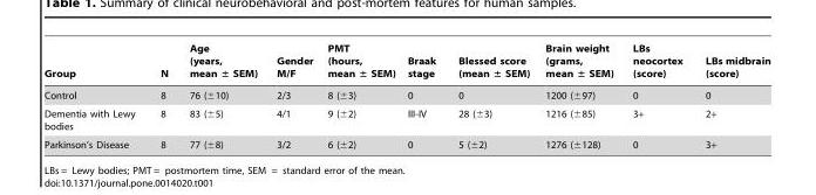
<table><thead><tr><td>Group</td><td>N</td><td>Age (years, mean ± SEM)</td><td>Gender M/F</td><td>PMT (hours, mean ± SEM)</td><td>Braak stage</td><td>Blessed score (mean ± SEM)</td><td>Brain weight (grams, mean ± SEM)</td><td>LBs neocortex (score)</td><td>LBs midbrain (score)</td></tr></thead><tbody><tr><td>Control</td><td>8</td><td>76 (±10)</td><td>2/3</td><td>8 (±3)</td><td>0</td><td>0</td><td>1200 (±97)</td><td>0</td><td>0</td></tr><tr><td>Dementia with Lewy bodies</td><td>8</td><td>83 (±5)</td><td>4/1</td><td>9 (±2)</td><td>III-IV</td><td>28 (±3)</td><td>1216 (±85)</td><td>3+</td><td>2+</td></tr><tr><td>Parkinson’s Disease</td><td>8</td><td>77 (±8)</td><td>3/2</td><td>6 (±2)</td><td>0</td><td>5 (±2)</td><td>1276 (±128)</td><td>0</td><td>3+</td></tr></tbody></table>